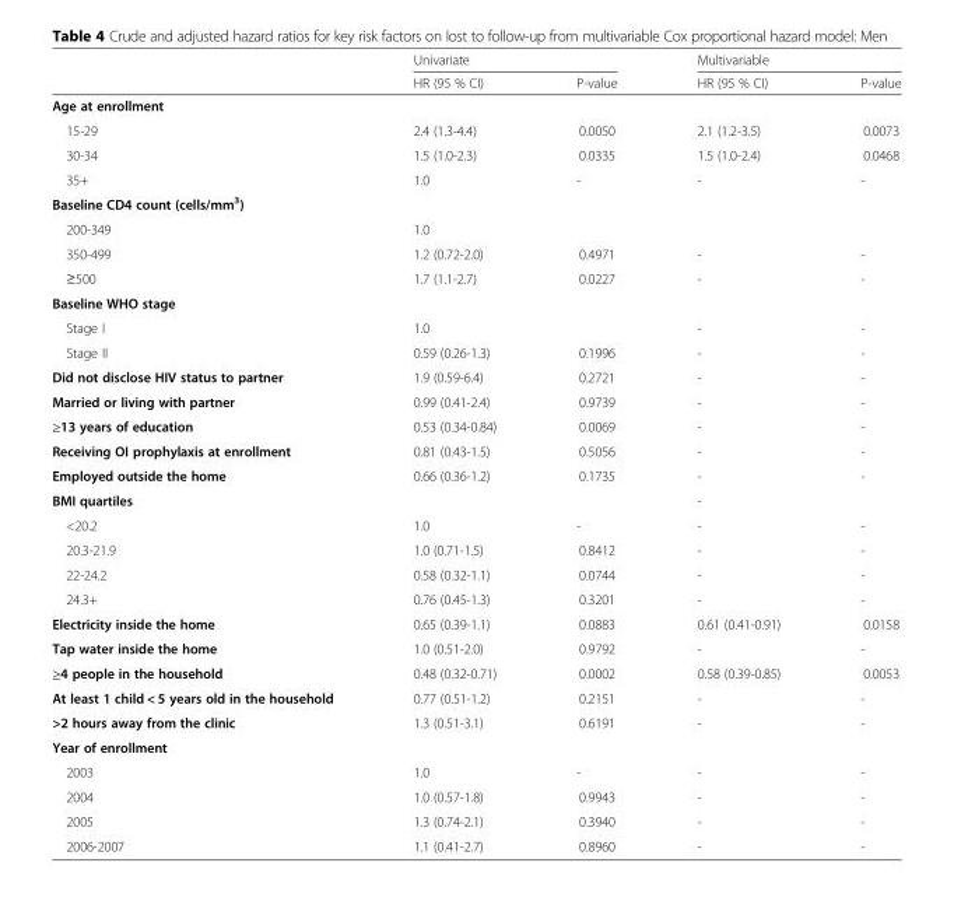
<table><thead><tr><td rowspan="2"></td><td colspan="2">Univariate</td><td colspan="2">Multivariable</td></tr><tr><td>HR (95 % CI)</td><td>P-value</td><td>HR (95 % CI)</td><td>P-value</td></tr></thead><tbody><tr><td colspan="5">Age at enrollment</td></tr><tr><td>15-29</td><td>2.4 (1.3-4.4)</td><td>0.0050</td><td>2.1 (1.2-3.5)</td><td>0.0073</td></tr><tr><td>30-34</td><td>1.5 (1.0-2.3)</td><td>0.0335</td><td>1.5 (1.0-2.4)</td><td>0.0468</td></tr><tr><td>35+</td><td>1.0</td><td>-</td><td>-</td><td>-</td></tr><tr><td colspan="5">Baseline CD4 count (cells/mm<sup>3</sup>)</td></tr><tr><td>200-349</td><td>1.0</td><td></td><td></td><td></td></tr><tr><td>350-499</td><td>1.2 (0.72-2.0)</td><td>0.4971</td><td>-</td><td>-</td></tr><tr><td>≥500</td><td>1.7 (1.1-2.7)</td><td>0.0227</td><td>-</td><td>-</td></tr><tr><td colspan="5">Baseline WHO stage</td></tr><tr><td>Stage I</td><td>1.0</td><td></td><td>-</td><td>-</td></tr><tr><td>Stage II</td><td>0.59 (0.26-1.3)</td><td>0.1996</td><td>-</td><td>-</td></tr><tr><td>Did not disclose HIV status to partner</td><td>1.9 (0.59-6.4)</td><td>0.2721</td><td>-</td><td>-</td></tr><tr><td>Married or living with partner</td><td>0.99 (0.41-2.4)</td><td>0.9739</td><td>-</td><td>-</td></tr><tr><td>≥13 years of education</td><td>0.53 (0.34-0.84)</td><td>0.0069</td><td>-</td><td>-</td></tr><tr><td>Receiving OI prophylaxis at enrollment</td><td>0.81 (0.43-1.5)</td><td>0.5056</td><td>-</td><td>-</td></tr><tr><td>Employed outside the home</td><td>0.66 (0.36-1.2)</td><td>0.1735</td><td>-</td><td>-</td></tr><tr><td>BMI quartiles</td><td></td><td></td><td>-</td><td></td></tr><tr><td>&lt;20.2</td><td>1.0</td><td>-</td><td>-</td><td>-</td></tr><tr><td>20.3-21.9</td><td>1.0 (0.71-1.5)</td><td>0.8412</td><td>-</td><td>-</td></tr><tr><td>22-24.2</td><td>0.58 (0.32-1.1)</td><td>0.0744</td><td>-</td><td>-</td></tr><tr><td>24.3+</td><td>0.76 (0.45-1.3)</td><td>0.3201</td><td>-</td><td>-</td></tr><tr><td>Electricity inside the home</td><td>0.65 (0.39-1.1)</td><td>0.0883</td><td>0.61 (0.41-0.91)</td><td>0.0158</td></tr><tr><td>Tap water inside the home</td><td>1.0 (0.51-2.0)</td><td>0.9792</td><td>-</td><td>-</td></tr><tr><td>≥4 people in the household</td><td>0.48 (0.32-0.71)</td><td>0.0002</td><td>0.58 (0.39-0.85)</td><td>0.0053</td></tr><tr><td>At least 1 child &lt; 5 years old in the household</td><td>0.77 (0.51-1.2)</td><td>0.2151</td><td>-</td><td>-</td></tr><tr><td>&gt;2 hours away from the clinic</td><td>1.3 (0.51-3.1)</td><td>0.6191</td><td>-</td><td>-</td></tr><tr><td colspan="5">Year of enrollment</td></tr><tr><td>2003</td><td>1.0</td><td>-</td><td>-</td><td>-</td></tr><tr><td>2004</td><td>1.0 (0.57-1.8)</td><td>0.9943</td><td>-</td><td>-</td></tr><tr><td>2005</td><td>1.3 (0.74-2.1)</td><td>0.3940</td><td>-</td><td>-</td></tr><tr><td>2006-2007</td><td>1.1 (0.41-2.7)</td><td>0.8960</td><td>-</td><td>-</td></tr></tbody></table>